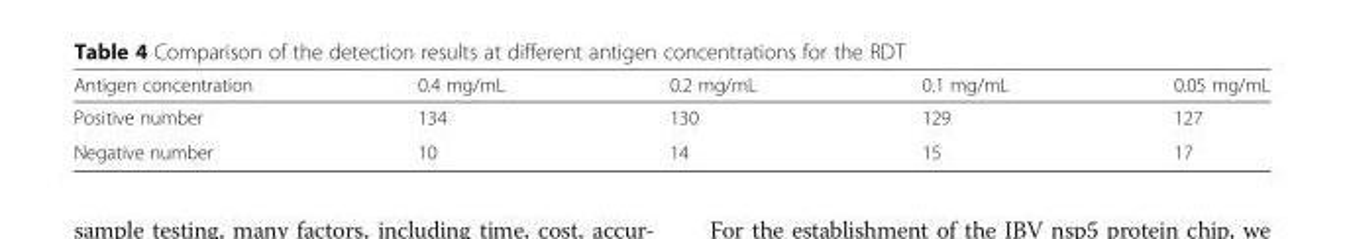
<table><thead><tr><td>Antigen concentration</td><td>0.4 mg/mL</td><td>0.2 mg/mL</td><td>0.1 mg/mL</td><td>0.05 mg/mL</td></tr></thead><tbody><tr><td>Positive number</td><td>134</td><td>130</td><td>129</td><td>127</td></tr><tr><td>Negative number</td><td>10</td><td>14</td><td>15</td><td>17</td></tr></tbody></table>